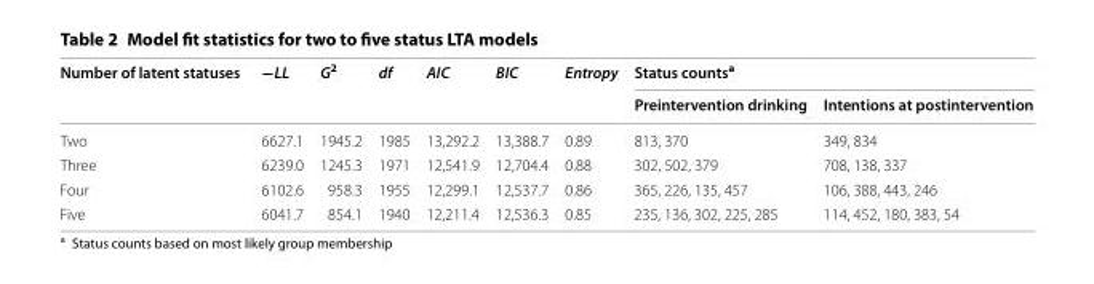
<table><thead><tr><td rowspan="2">Number of latent statuses</td><td rowspan="2">−LL</td><td rowspan="2">G<sup>2</sup></td><td rowspan="2">df</td><td rowspan="2">AIC</td><td rowspan="2">BIC</td><td rowspan="2">Entropy</td><td colspan="2">Status counts<sup>a</sup></td></tr><tr><td>Preintervention drinking</td><td>Intentions at postintervention</td></tr></thead><tbody><tr><td>Two</td><td>6627.1</td><td>1945.2</td><td>1985</td><td>13,292.2</td><td>13,388.7</td><td>0.89</td><td>813, 370</td><td>349, 834</td></tr><tr><td>Three</td><td>6239.0</td><td>1245.3</td><td>1971</td><td>12,541.9</td><td>12,704.4</td><td>0.88</td><td>302, 502, 379</td><td>708, 138, 337</td></tr><tr><td>Four</td><td>6102.6</td><td>958.3</td><td>1955</td><td>12,299.1</td><td>12,537.7</td><td>0.86</td><td>365, 226, 135, 457</td><td>106, 388, 443, 246</td></tr><tr><td>Five</td><td>6041.7</td><td>854.1</td><td>1940</td><td>12,211.4</td><td>12,536.3</td><td>0.85</td><td>235, 136, 302, 225, 285</td><td>114, 452, 180, 383, 54</td></tr></tbody></table>